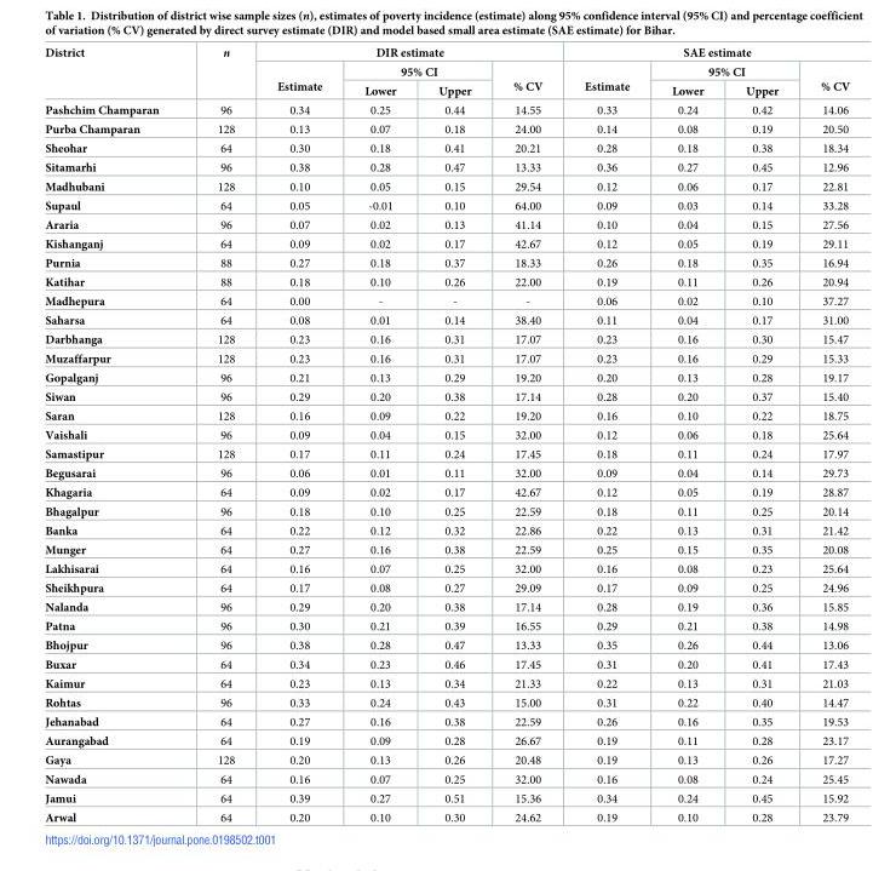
<table><thead><tr><td rowspan="3">District</td><td rowspan="3">n</td><td colspan="4">DIR estimate</td><td colspan="4">SAE estimate</td></tr><tr><td rowspan="2">Estimate</td><td colspan="2">95% CI</td><td rowspan="2">% CV</td><td rowspan="2">Estimate</td><td colspan="2">95% CI</td><td rowspan="2">% CV</td></tr><tr><td>Lower</td><td>Upper</td><td>Lower</td><td>Upper</td></tr></thead><tbody><tr><td>Pashchim Champaran</td><td>96</td><td>0.34</td><td>0.25</td><td>0.44</td><td>14.55</td><td>0.33</td><td>0.24</td><td>0.42</td><td>14.06</td></tr><tr><td>Purba Champaran</td><td>128</td><td>0.13</td><td>0.07</td><td>0.18</td><td>24.00</td><td>0.14</td><td>0.08</td><td>0.19</td><td>20.50</td></tr><tr><td>Sheohar</td><td>64</td><td>0.30</td><td>0.18</td><td>0.41</td><td>20.21</td><td>0.28</td><td>0.18</td><td>0.38</td><td>18.34</td></tr><tr><td>Sitamarhi</td><td>96</td><td>0.38</td><td>0.28</td><td>0.47</td><td>13.33</td><td>0.36</td><td>0.27</td><td>0.45</td><td>12.96</td></tr><tr><td>Madhubani</td><td>128</td><td>0.10</td><td>0.05</td><td>0.15</td><td>29.54</td><td>0.12</td><td>0.06</td><td>0.17</td><td>22.81</td></tr><tr><td>Supaul</td><td>64</td><td>0.05</td><td>-0.01</td><td>0.10</td><td>64.00</td><td>0.09</td><td>0.03</td><td>0.14</td><td>33.28</td></tr><tr><td>Araria</td><td>96</td><td>0.07</td><td>0.02</td><td>0.13</td><td>41.14</td><td>0.10</td><td>0.04</td><td>0.15</td><td>27.56</td></tr><tr><td>Kishanganj</td><td>64</td><td>0.09</td><td>0.02</td><td>0.17</td><td>42.67</td><td>0.12</td><td>0.05</td><td>0.19</td><td>29.11</td></tr><tr><td>Purnia</td><td>88</td><td>0.27</td><td>0.18</td><td>0.37</td><td>18.33</td><td>0.26</td><td>0.18</td><td>0.35</td><td>16.94</td></tr><tr><td>Katihar</td><td>88</td><td>0.18</td><td>0.10</td><td>0.26</td><td>22.00</td><td>0.19</td><td>0.11</td><td>0.26</td><td>20.94</td></tr><tr><td>Madhepura</td><td>64</td><td>0.00</td><td>-</td><td>-</td><td>-</td><td>0.06</td><td>0.02</td><td>0.10</td><td>37.27</td></tr><tr><td>Saharsa</td><td>64</td><td>0.08</td><td>0.01</td><td>0.14</td><td>38.40</td><td>0.11</td><td>0.04</td><td>0.17</td><td>31.00</td></tr><tr><td>Darbhanga</td><td>128</td><td>0.23</td><td>0.16</td><td>0.31</td><td>17.07</td><td>0.23</td><td>0.16</td><td>0.30</td><td>15.47</td></tr><tr><td>Muzaffarpur</td><td>128</td><td>0.23</td><td>0.16</td><td>0.31</td><td>17.07</td><td>0.23</td><td>0.16</td><td>0.29</td><td>15.33</td></tr><tr><td>Gopalganj</td><td>96</td><td>0.21</td><td>0.13</td><td>0.29</td><td>19.20</td><td>0.20</td><td>0.13</td><td>0.28</td><td>19.17</td></tr><tr><td>Siwan</td><td>96</td><td>0.29</td><td>0.20</td><td>0.38</td><td>17.14</td><td>0.28</td><td>0.20</td><td>0.37</td><td>15.40</td></tr><tr><td>Saran</td><td>128</td><td>0.16</td><td>0.09</td><td>0.22</td><td>19.20</td><td>0.16</td><td>0.10</td><td>0.22</td><td>18.75</td></tr><tr><td>Vaishali</td><td>96</td><td>0.09</td><td>0.04</td><td>0.15</td><td>32.00</td><td>0.12</td><td>0.06</td><td>0.18</td><td>25.64</td></tr><tr><td>Samastipur</td><td>128</td><td>0.17</td><td>0.11</td><td>0.24</td><td>17.45</td><td>0.18</td><td>0.11</td><td>0.24</td><td>17.97</td></tr><tr><td>Begusarai</td><td>96</td><td>0.06</td><td>0.01</td><td>0.11</td><td>32.00</td><td>0.09</td><td>0.04</td><td>0.14</td><td>29.73</td></tr><tr><td>Khagaria</td><td>64</td><td>0.09</td><td>0.02</td><td>0.17</td><td>42.67</td><td>0.12</td><td>0.05</td><td>0.19</td><td>28.87</td></tr><tr><td>Bhagalpur</td><td>96</td><td>0.18</td><td>0.10</td><td>0.25</td><td>22.59</td><td>0.18</td><td>0.11</td><td>0.25</td><td>20.14</td></tr><tr><td>Banka</td><td>64</td><td>0.22</td><td>0.12</td><td>0.32</td><td>22.86</td><td>0.22</td><td>0.13</td><td>0.31</td><td>21.42</td></tr><tr><td>Munger</td><td>64</td><td>0.27</td><td>0.16</td><td>0.38</td><td>22.59</td><td>0.25</td><td>0.15</td><td>0.35</td><td>20.08</td></tr><tr><td>Lakhisarai</td><td>64</td><td>0.16</td><td>0.07</td><td>0.25</td><td>32.00</td><td>0.16</td><td>0.08</td><td>0.23</td><td>25.64</td></tr><tr><td>Sheikhpura</td><td>64</td><td>0.17</td><td>0.08</td><td>0.27</td><td>29.09</td><td>0.17</td><td>0.09</td><td>0.25</td><td>24.96</td></tr><tr><td>Nalanda</td><td>96</td><td>0.29</td><td>0.20</td><td>0.38</td><td>17.14</td><td>0.28</td><td>0.19</td><td>0.36</td><td>15.85</td></tr><tr><td>Patna</td><td>96</td><td>0.30</td><td>0.21</td><td>0.39</td><td>16.55</td><td>0.29</td><td>0.21</td><td>0.38</td><td>14.98</td></tr><tr><td>Bhojpur</td><td>96</td><td>0.38</td><td>0.28</td><td>0.47</td><td>13.33</td><td>0.35</td><td>0.26</td><td>0.44</td><td>13.06</td></tr><tr><td>Buxar</td><td>64</td><td>0.34</td><td>0.23</td><td>0.46</td><td>17.45</td><td>0.31</td><td>0.20</td><td>0.41</td><td>17.43</td></tr><tr><td>Kaimur</td><td>64</td><td>0.23</td><td>0.13</td><td>0.34</td><td>21.33</td><td>0.22</td><td>0.13</td><td>0.31</td><td>21.03</td></tr><tr><td>Rohtas</td><td>96</td><td>0.33</td><td>0.24</td><td>0.43</td><td>15.00</td><td>0.31</td><td>0.22</td><td>0.40</td><td>14.47</td></tr><tr><td>Jehanabad</td><td>64</td><td>0.27</td><td>0.16</td><td>0.38</td><td>22.59</td><td>0.26</td><td>0.16</td><td>0.35</td><td>19.53</td></tr><tr><td>Aurangabad</td><td>64</td><td>0.19</td><td>0.09</td><td>0.28</td><td>26.67</td><td>0.19</td><td>0.11</td><td>0.28</td><td>23.17</td></tr><tr><td>Gaya</td><td>128</td><td>0.20</td><td>0.13</td><td>0.26</td><td>20.48</td><td>0.19</td><td>0.13</td><td>0.26</td><td>17.27</td></tr><tr><td>Nawada</td><td>64</td><td>0.16</td><td>0.07</td><td>0.25</td><td>32.00</td><td>0.16</td><td>0.08</td><td>0.24</td><td>25.45</td></tr><tr><td>Jamui</td><td>64</td><td>0.39</td><td>0.27</td><td>0.51</td><td>15.36</td><td>0.34</td><td>0.24</td><td>0.45</td><td>15.92</td></tr><tr><td>Arwal</td><td>64</td><td>0.20</td><td>0.10</td><td>0.30</td><td>24.62</td><td>0.19</td><td>0.10</td><td>0.28</td><td>23.79</td></tr></tbody></table>